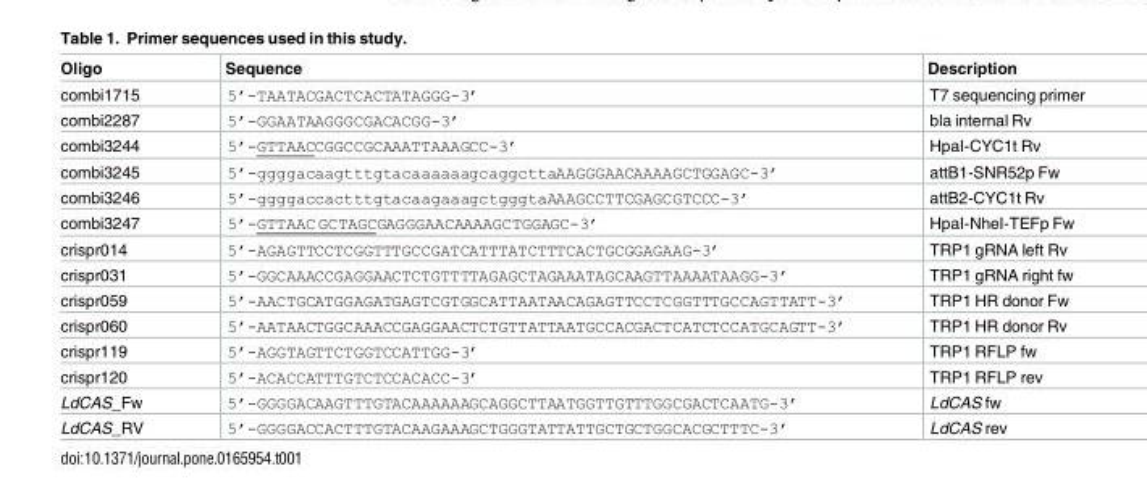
<table><thead><tr><td>Oligo</td><td>Sequence</td><td>Description</td></tr></thead><tbody><tr><td>combi1715</td><td>5’-TAATACGACTCACTATAGGG-3’</td><td>T7 sequencing primer</td></tr><tr><td>combi2287</td><td>5’-GGAATAAGGGCGACACGG-3’</td><td>bla internal Rv</td></tr><tr><td>combi3244</td><td>5’-GTTAACCGGCCGCAAATTAAAGCC-3’</td><td>HpaI-CYC1t Rv</td></tr><tr><td>combi3245</td><td>5’-ggggacaagtttgtacaaaaaagcaggcttaAAGGGAACAAAAGCTGGAGC-3’</td><td>attB1-SNR52p Fw</td></tr><tr><td>combi3246</td><td>5’-ggggaccactttgtacaagaaagctgggtaAAAGCCTTCGAGCGTCCC-3’</td><td>attB2-CYC1t Rv</td></tr><tr><td>combi3247</td><td>5’-GTTAAC GCTAGCGAGGGAACAAAAGCTGGAGC-3’</td><td>HpaI-NheI-TEFp Fw</td></tr><tr><td>crispr014</td><td>5’-AGAGTTCCTCGGTTTGCCGATCATTTATCTTTCACTGCGGAGAAG-3’</td><td>TRP1 gRNA left Rv</td></tr><tr><td>crispr031</td><td>5’-GGCAAACCGAGGAACTCTGTTTTAGAGCTAGAAATAGCAAGTTAAAATAAGG-3’</td><td>TRP1 gRNA right fw</td></tr><tr><td>crispr059</td><td>5’-AACTGCATGGAGATGAGTCGTGGCATTAATAACAGAGTTCCTCGGTTTGCCAGTTATT-3’</td><td>TRP1 HR donor Fw</td></tr><tr><td>crispr060</td><td>5’-AATAACTGGCAAACCGAGGAACTCTGTTATTAATGCCACGACTCATCTCCATGCAGTT-3’</td><td>TRP1 HR donor Rv</td></tr><tr><td>crispr119</td><td>5’-AGGTAGTTCTGGTCCATTGG-3’</td><td>TRP1 RFLP fw</td></tr><tr><td>crispr120</td><td>5’-ACACCATTTGTCTCCACACC-3’</td><td>TRP1 RFLP rev</td></tr><tr><td>LdCAS_Fw</td><td>5’-GGGGACAAGTTTGTACAAAAAAGCAGGCTTAATGGTTGTTTGGCGACTCAATG-3’</td><td>LdCAS fw</td></tr><tr><td>LdCAS_RV</td><td>5’-GGGGACCACTTTGTACAAGAAAGCTGGGTATTATTGCTGCTGGCACGCTTTC-3’</td><td>LdCAS rev</td></tr></tbody></table>